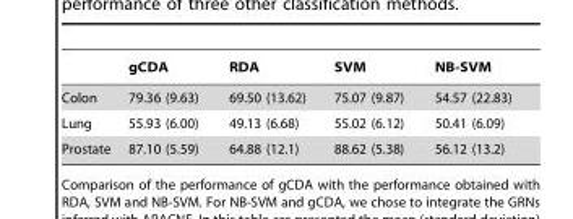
<table><thead><tr><td></td><td>gCDA</td><td>RDA</td><td>SVM</td><td>NB-SVM</td></tr></thead><tbody><tr><td>Colon</td><td>79.36 (9.63)</td><td>69.50 (13.62)</td><td>75.07 (9.87)</td><td>54.57 (22.83)</td></tr><tr><td>Lung</td><td>55.93 (6.00)</td><td>49.13 (6.68)</td><td>55.02 (6.12)</td><td>50.41 (6.09)</td></tr><tr><td>Prostate</td><td>87.10 (5.59)</td><td>64.88 (12.1)</td><td>88.62 (5.38)</td><td>56.12 (13.2)</td></tr></tbody></table>